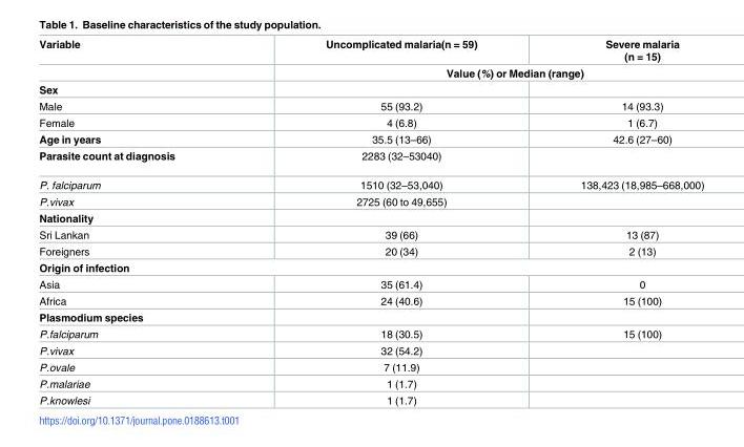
<table><thead><tr><td rowspan="2">Variable</td><td>Uncomplicated malaria(n = 59)</td><td>Severe malaria (n = 15)</td></tr><tr><td colspan="2">Value (%) or Median (range)</td></tr></thead><tbody><tr><td colspan="3">Sex</td></tr><tr><td>Male</td><td>55 (93.2)</td><td>14 (93.3)</td></tr><tr><td>Female</td><td>4 (6.8)</td><td>1 (6.7)</td></tr><tr><td>Age in years</td><td>35.5 (13–66)</td><td>42.6 (27–60)</td></tr><tr><td>Parasite count at diagnosis</td><td>2283 (32–53040)</td><td></td></tr><tr><td>P. falciparum</td><td>1510 (32–53,040)</td><td>138,423 (18,985–668,000)</td></tr><tr><td>P.vivax</td><td>2725 (60 to 49,655)</td><td></td></tr><tr><td colspan="3">Nationality</td></tr><tr><td>Sri Lankan</td><td>39 (66)</td><td>13 (87)</td></tr><tr><td>Foreigners</td><td>20 (34)</td><td>2 (13)</td></tr><tr><td colspan="3">Origin of infection</td></tr><tr><td>Asia</td><td>35 (61.4)</td><td>0</td></tr><tr><td>Africa</td><td>24 (40.6)</td><td>15 (100)</td></tr><tr><td colspan="3">Plasmodium species</td></tr><tr><td>P.falciparum</td><td>18 (30.5)</td><td>15 (100)</td></tr><tr><td>P.vivax</td><td>32 (54.2)</td><td></td></tr><tr><td>P.ovale</td><td>7 (11.9)</td><td></td></tr><tr><td>P.malariae</td><td>1 (1.7)</td><td></td></tr><tr><td>P.knowlesi</td><td>1 (1.7)</td><td></td></tr></tbody></table>